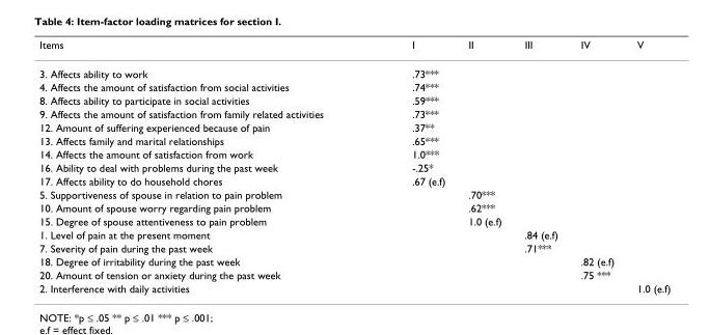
<table><thead><tr><td>Items</td><td>I</td><td>II</td><td>III</td><td>IV</td><td>V</td></tr></thead><tbody><tr><td>3. Affects ability to work</td><td>.73***</td><td></td><td></td><td></td><td></td></tr><tr><td>4. Affects the amount of satisfaction from social activities</td><td>.74***</td><td></td><td></td><td></td><td></td></tr><tr><td>8. Affects ability to participate in social activities</td><td>.59***</td><td></td><td></td><td></td><td></td></tr><tr><td>9. Affects the amount of satisfaction from family related activities</td><td>.73***</td><td></td><td></td><td></td><td></td></tr><tr><td>12. Amount of suffering experienced because of pain</td><td>.37**</td><td></td><td></td><td></td><td></td></tr><tr><td>13. Affects family and marital relationships</td><td>.65***</td><td></td><td></td><td></td><td></td></tr><tr><td>14. Affects the amount of satisfaction from work</td><td>1.0***</td><td></td><td></td><td></td><td></td></tr><tr><td>16. Ability to deal with problems during the past week</td><td>-.25*</td><td></td><td></td><td></td><td></td></tr><tr><td>17. Affects ability to do household chores</td><td>.67 (e.f)</td><td></td><td></td><td></td><td></td></tr><tr><td>5. Supportiveness of spouse in relation to pain problem</td><td></td><td>.70***</td><td></td><td></td><td></td></tr><tr><td>10. Amount of spouse worry regarding pain problem</td><td></td><td>.62***</td><td></td><td></td><td></td></tr><tr><td>15. Degree of spouse attentiveness to pain problem</td><td></td><td>1.0 (e.f)</td><td></td><td></td><td></td></tr><tr><td>1. Level of pain at the present moment</td><td></td><td></td><td>.84 (e.f)</td><td></td><td></td></tr><tr><td>7. Severity of pain during the past week</td><td></td><td></td><td>.71***</td><td></td><td></td></tr><tr><td>18. Degree of irritability during the past week</td><td></td><td></td><td></td><td>.82 (e.f)</td><td></td></tr><tr><td>20. Amount of tension or anxiety during the past week</td><td></td><td></td><td></td><td>.75 ***</td><td></td></tr><tr><td>2. Interference with daily activities</td><td></td><td></td><td></td><td></td><td>1.0 (e.f)</td></tr></tbody></table>